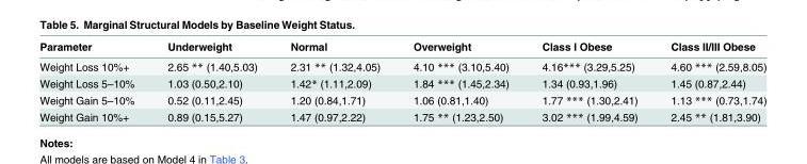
<table><thead><tr><td>Parameter</td><td>Underweight</td><td>Normal</td><td>Overweight</td><td>Class I Obese</td><td>Class II/III Obese</td></tr></thead><tbody><tr><td>Weight Loss 10%+</td><td>2.65 ** (1.40,5.03)</td><td>2.31 ** (1.32,4.05)</td><td>4.10 *** (3.10,5.40)</td><td>4.16*** (3.29,5.25)</td><td>4.60 *** (2.59,8.05)</td></tr><tr><td>Weight Loss 5–10%</td><td>1.03 (0.50,2.10)</td><td>1.42* (1.11,2.09)</td><td>1.84 *** (1.45,2.34)</td><td>1.34 (0.93,1.96)</td><td>1.45 (0.87,2.44)</td></tr><tr><td>Weight Gain 5–10%</td><td>0.52 (0.11,2.45)</td><td>1.20 (0.84,1.71)</td><td>1.06 (0.81,1.40)</td><td>1.77 *** (1.30,2.41)</td><td>1.13 *** (0.73,1.74)</td></tr><tr><td>Weight Gain 10%+</td><td>0.89 (0.15,5.27)</td><td>1.47 (0.97,2.22)</td><td>1.75 ** (1.23,2.50)</td><td>3.02 *** (1.99,4.59)</td><td>2.45 ** (1.81,3.90)</td></tr></tbody></table>